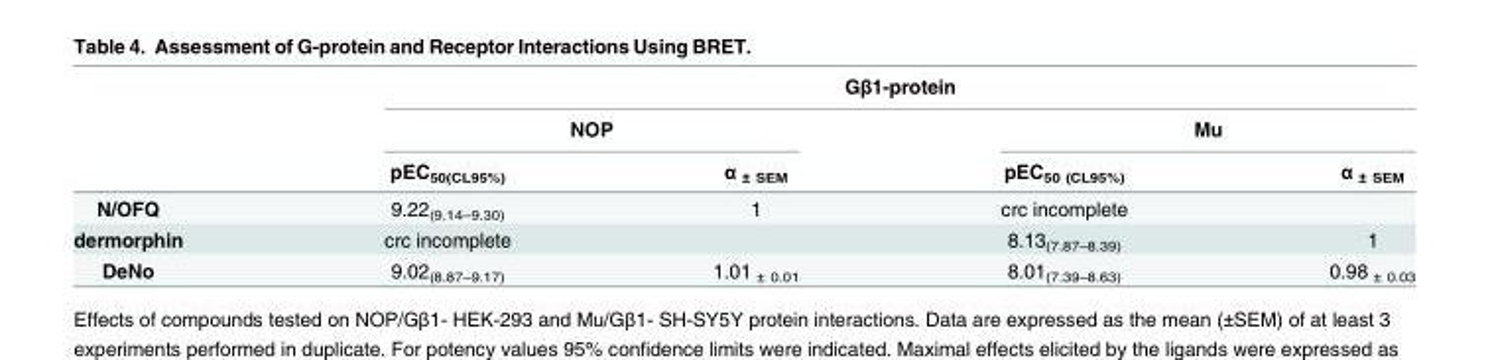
<table><thead><tr><td rowspan="3"></td><td colspan="4">Gβ1-protein</td></tr><tr><td colspan="2">NOP</td><td colspan="2">Mu</td></tr><tr><td>pEC<sub>50(CL95%)</sub></td><td>α <sub>± SEM</sub></td><td>pEC<sub>50 (CL95%)</sub></td><td>α <sub>± SEM</sub></td></tr></thead><tbody><tr><td>N/OFQ</td><td>9.22<sub>(9.14–9.30)</sub></td><td>1</td><td>crc incomplete</td><td></td></tr><tr><td>dermorphin</td><td>crc incomplete</td><td></td><td>8.13<sub>(7.87–8.39)</sub></td><td>1</td></tr><tr><td>DeNo</td><td>9.02<sub>(8.87–9.17)</sub></td><td>1.01 <sub>± 0.01</sub></td><td>8.01<sub>(7.39–8.63)</sub></td><td>0.98 <sub>± 0.03</sub></td></tr></tbody></table>